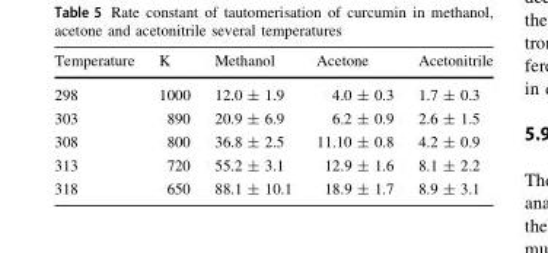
<table><thead><tr><td>Temperature</td><td>K</td><td>Methanol</td><td>Acetone</td><td>Acetonitrile</td></tr></thead><tbody><tr><td>298</td><td>1000</td><td>12.0 ± 1.9</td><td>4.0 ± 0.3</td><td>1.7 ± 0.3</td></tr><tr><td>303</td><td>890</td><td>20.9 ± 6.9</td><td>6.2 ± 0.9</td><td>2.6 ± 1.5</td></tr><tr><td>308</td><td>800</td><td>36.8 ± 2.5</td><td>11.10 ± 0.8</td><td>4.2 ± 0.9</td></tr><tr><td>313</td><td>720</td><td>55.2 ± 3.1</td><td>12.9 ± 1.6</td><td>8.1 ± 2.2</td></tr><tr><td>318</td><td>650</td><td>88.1 ± 10.1</td><td>18.9 ± 1.7</td><td>8.9 ± 3.1</td></tr></tbody></table>